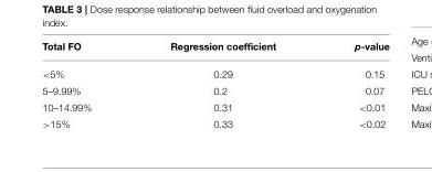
<table><thead><tr><td>Total FO</td><td>Regression coefficient</td><td>p-value</td></tr></thead><tbody><tr><td>&lt;5%</td><td>0.29</td><td>0.15</td></tr><tr><td>5–9.99%</td><td>0.2</td><td>0.07</td></tr><tr><td>10–14.99%</td><td>0.31</td><td>&lt;0.01</td></tr><tr><td>&gt;15%</td><td>0.33</td><td>&lt;0.02</td></tr></tbody></table>